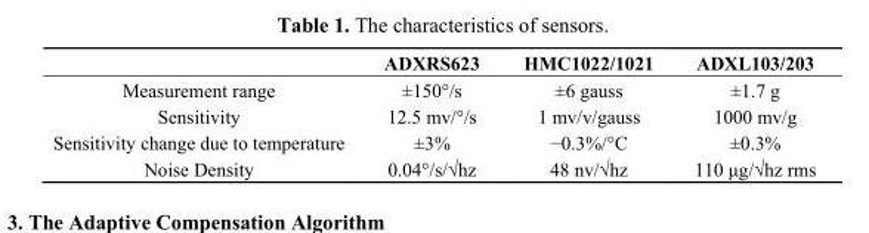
<table><thead><tr><td></td><td>ADXRS623</td><td>HMC1022/1021</td><td>ADXL103/203</td></tr></thead><tbody><tr><td>Measurement range</td><td>±150°/s</td><td>±6 gauss</td><td>±1.7 g</td></tr><tr><td>Sensitivity</td><td>12.5 mv/°/s</td><td>1 mv/v/gauss</td><td>1000 mv/g</td></tr><tr><td>Sensitivity change due to temperature</td><td>±3%</td><td>−0.3%/°C</td><td>±0.3%</td></tr><tr><td>Noise Density</td><td>0.04°/s/√hz</td><td>48 nv/√hz</td><td>110 μg/√hz rms</td></tr></tbody></table>